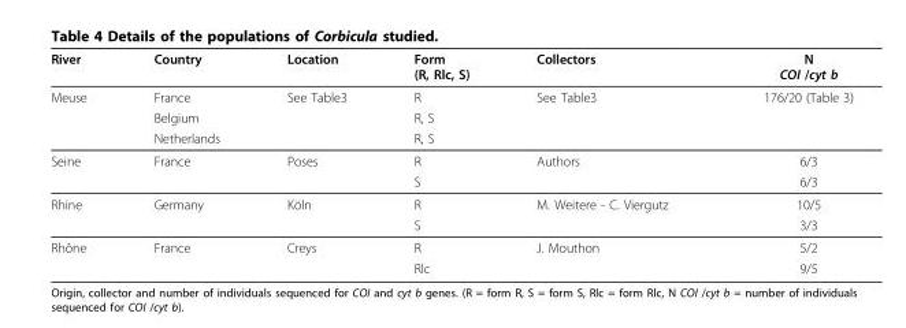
<table><thead><tr><td>River</td><td>Country</td><td>Location</td><td>Form (R, Rlc, S)</td><td>Collectors</td><td>N COI /cyt b</td></tr></thead><tbody><tr><td rowspan="3">Meuse</td><td>France</td><td>See Table3</td><td>R</td><td>See Table3</td><td>176/20 (Table 3)</td></tr><tr><td>Belgium</td><td></td><td>R, S</td><td></td><td></td></tr><tr><td>Netherlands</td><td></td><td>R, S</td><td></td><td></td></tr><tr><td rowspan="2">Seine</td><td>France</td><td>Poses</td><td>R</td><td>Authors</td><td>6/3</td></tr><tr><td></td><td></td><td>S</td><td></td><td>6/3</td></tr><tr><td rowspan="2">Rhine</td><td>Germany</td><td>Köln</td><td>R</td><td>M. Weitere - C. Viergutz</td><td>10/5</td></tr><tr><td></td><td></td><td>S</td><td></td><td>3/3</td></tr><tr><td rowspan="2">Rhône</td><td>France</td><td>Creys</td><td>R</td><td>J. Mouthon</td><td>5/2</td></tr><tr><td></td><td></td><td>Rlc</td><td></td><td>9/5</td></tr></tbody></table>